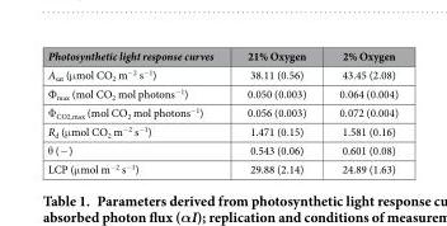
<table><thead><tr><td>Photosynthetic light response curves</td><td>21% Oxygen</td><td>2% Oxygen</td></tr></thead><tbody><tr><td>A<sub>sat</sub> (μ mol CO<sub>2</sub> m<sup>−2</sup> s<sup>−1</sup>)</td><td>38.11 (0.56)</td><td>43.45 (2.08)</td></tr><tr><td>Ф<sub>max</sub> (mol CO<sub>2</sub> mol photons<sup>−1</sup>)</td><td>0.050 (0.003)</td><td>0.064 (0.004)</td></tr><tr><td>Φ <sub>CO2,max</sub> (mol CO<sub>2</sub> mol photons<sup>−1</sup>)</td><td>0.056 (0.003)</td><td>0.072 (0.004)</td></tr><tr><td>R<sub>d</sub> (μ mol CO<sub>2</sub> m<sup>−2</sup> s<sup>−1</sup>)</td><td>1.471 (0.15)</td><td>1.581 (0.16)</td></tr><tr><td>θ (− )</td><td>0.543 (0.06)</td><td>0.601 (0.08)</td></tr><tr><td>LCP (μ mol m<sup>−2</sup> s<sup>−1</sup>)</td><td>29.88 (2.14)</td><td>24.89 (1.63)</td></tr></tbody></table>